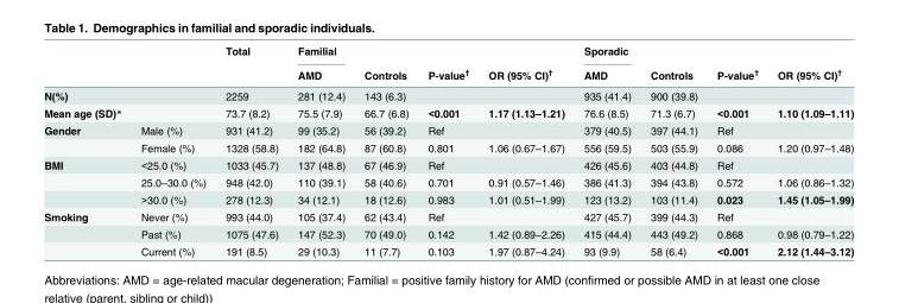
<table><thead><tr><td rowspan="2"></td><td rowspan="2"></td><td rowspan="2">Total</td><td rowspan="2">Familial AMD</td><td rowspan="2">Controls</td><td rowspan="2">P-value<sup>†</sup></td><td rowspan="2">OR (95% CI)<sup>†</sup></td><td rowspan="2">Sporadic AMD</td><td rowspan="2">Controls</td><td rowspan="2">P-value<sup>†</sup></td><td rowspan="2">OR (95% CI)<sup>†</sup></td></tr><tr></tr></thead><tbody><tr><td>N(%)</td><td></td><td>2259</td><td>281 (12.4)</td><td>143 (6.3)</td><td></td><td></td><td>935 (41.4)</td><td>900 (39.8)</td><td></td><td></td></tr><tr><td>Mean age (SD)*</td><td></td><td>73.7 (8.2)</td><td>75.5 (7.9)</td><td>66.7 (6.8)</td><td>&lt;0.001</td><td>1.17 (1.13–1.21)</td><td>76.6 (8.5)</td><td>71.3 (6.7)</td><td>&lt;0.001</td><td>1.10 (1.09–1.11)</td></tr><tr><td rowspan="2">Gender</td><td>Male (%)</td><td>931 (41.2)</td><td>99 (35.2)</td><td>56 (39.2)</td><td>Ref</td><td></td><td>379 (40.5)</td><td>397 (44.1)</td><td>Ref</td><td></td></tr><tr><td>Female (%)</td><td>1328 (58.8)</td><td>182 (64.8)</td><td>87 (60.8)</td><td>0.801</td><td>1.06 (0.67–1.67)</td><td>556 (59.5)</td><td>503 (55.9)</td><td>0.086</td><td>1.20 (0.97–1.48)</td></tr><tr><td rowspan="3">BMI</td><td>&lt;25.0 (%)</td><td>1033 (45.7)</td><td>137 (48.8)</td><td>67 (46.9)</td><td>Ref</td><td></td><td>426 (45.6)</td><td>403 (44.8)</td><td>Ref</td><td></td></tr><tr><td>25.0–30.0 (%)</td><td>948 (42.0)</td><td>110 (39.1)</td><td>58 (40.6)</td><td>0.701</td><td>0.91 (0.57–1.46)</td><td>386 (41.3)</td><td>394 (43.8)</td><td>0.572</td><td>1.06 (0.86–1.32)</td></tr><tr><td>&gt;30.0 (%)</td><td>278 (12.3)</td><td>34 (12.1)</td><td>18 (12.6)</td><td>0.983</td><td>1.01 (0.51–1.99)</td><td>123 (13.2)</td><td>103 (11.4)</td><td>0.023</td><td>1.45 (1.05–1.99)</td></tr><tr><td rowspan="3">Smoking</td><td>Never (%)</td><td>993 (44.0)</td><td>105 (37.4)</td><td>62 (43.4)</td><td>Ref</td><td></td><td>427 (45.7)</td><td>399 (44.3)</td><td>Ref</td><td></td></tr><tr><td>Past (%)</td><td>1075 (47.6)</td><td>147 (52.3)</td><td>70 (49.0)</td><td>0.142</td><td>1.42 (0.89–2.26)</td><td>415 (44.4)</td><td>443 (49.2)</td><td>0.868</td><td>0.98 (0.79–1.22)</td></tr><tr><td>Current (%)</td><td>191 (8.5)</td><td>29 (10.3)</td><td>11 (7.7)</td><td>0.103</td><td>1.97 (0.87–4.24)</td><td>93 (9.9)</td><td>58 (6.4)</td><td>&lt;0.001</td><td>2.12 (1.44–3.12)</td></tr></tbody></table>